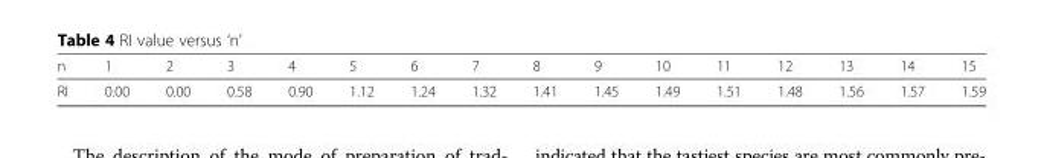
<table><thead><tr><td>n</td><td>1</td><td>2</td><td>3</td><td>4</td><td>5</td><td>6</td><td>7</td><td>8</td><td>9</td><td>10</td><td>11</td><td>12</td><td>13</td><td>14</td><td>15</td></tr></thead><tbody><tr><td>RI</td><td>0.00</td><td>0.00</td><td>0.58</td><td>0.90</td><td>1.12</td><td>1.24</td><td>1.32</td><td>1.41</td><td>1.45</td><td>1.49</td><td>1.51</td><td>1.48</td><td>1.56</td><td>1.57</td><td>1.59</td></tr></tbody></table>